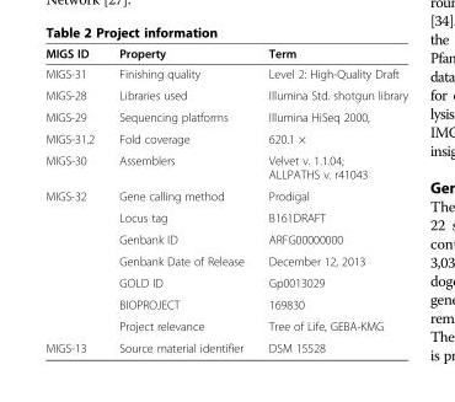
<table><thead><tr><td>MIGS ID</td><td>Property</td><td>Term</td></tr></thead><tbody><tr><td>MIGS-31</td><td>Finishing quality</td><td>Level 2: High-Quality Draft</td></tr><tr><td>MIGS-28</td><td>Libraries used</td><td>Illumina Std. shotgun library</td></tr><tr><td>MIGS-29</td><td>Sequencing platforms</td><td>Illumina HiSeq 2000,</td></tr><tr><td>MIGS-31.2</td><td>Fold coverage</td><td>620.1 ×</td></tr><tr><td>MIGS-30</td><td>Assemblers</td><td>Velvet v. 1.1.04; ALLPATHS v. r41043</td></tr><tr><td rowspan="7">MIGS-32</td><td>Gene calling method</td><td>Prodigal</td></tr><tr><td>Locus tag</td><td>B161DRAFT</td></tr><tr><td>Genbank ID</td><td>ARFG00000000</td></tr><tr><td>Genbank Date of Release</td><td>December 12, 2013</td></tr><tr><td>GOLD ID</td><td>Gp0013029</td></tr><tr><td>BIOPROJECT</td><td>169830</td></tr><tr><td>Project relevance</td><td>Tree of Life, GEBA-KMG</td></tr><tr><td>MIGS-13</td><td>Source material identifier</td><td>DSM 15528</td></tr></tbody></table>